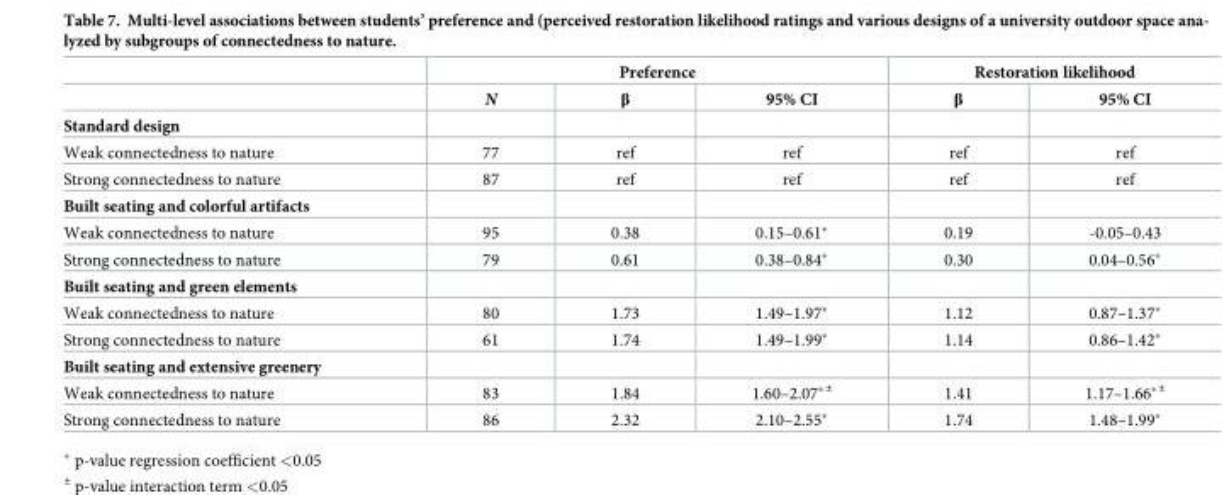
<table><thead><tr><td rowspan="2"></td><td colspan="3">Preference</td><td colspan="2">Restoration likelihood</td></tr><tr><td>N</td><td>β</td><td>95% CI</td><td>β</td><td>95% CI</td></tr></thead><tbody><tr><td colspan="6">Standard design</td></tr><tr><td>Weak connectedness to nature</td><td>77</td><td>ref</td><td>ref</td><td>ref</td><td>ref</td></tr><tr><td>Strong connectedness to nature</td><td>87</td><td>ref</td><td>ref</td><td>ref</td><td>ref</td></tr><tr><td colspan="6">Built seating and colorful artifacts</td></tr><tr><td>Weak connectedness to nature</td><td>95</td><td>0.38</td><td>0.15–0.61*</td><td>0.19</td><td>-0.05–0.43</td></tr><tr><td>Strong connectedness to nature</td><td>79</td><td>0.61</td><td>0.38–0.84*</td><td>0.30</td><td>0.04–0.56*</td></tr><tr><td colspan="6">Built seating and green elements</td></tr><tr><td>Weak connectedness to nature</td><td>80</td><td>1.73</td><td>1.49–1.97*</td><td>1.12</td><td>0.87–1.37*</td></tr><tr><td>Strong connectedness to nature</td><td>61</td><td>1.74</td><td>1.49–1.99*</td><td>1.14</td><td>0.86–1.42*</td></tr><tr><td colspan="6">Built seating and extensive greenery</td></tr><tr><td>Weak connectedness to nature</td><td>83</td><td>1.84</td><td>1.60–2.07*<sup>±</sup></td><td>1.41</td><td>1.17–1.66*<sup>±</sup></td></tr><tr><td>Strong connectedness to nature</td><td>86</td><td>2.32</td><td>2.10–2.55*</td><td>1.74</td><td>1.48–1.99*</td></tr></tbody></table>